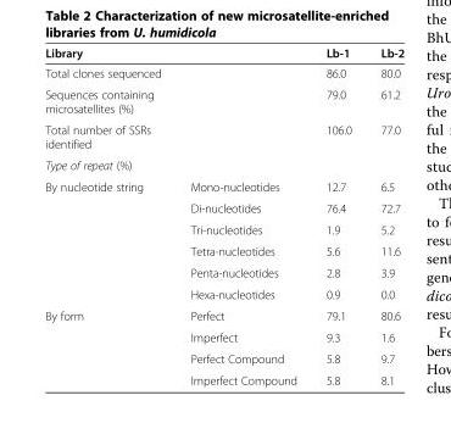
<table><thead><tr><td>Library</td><td></td><td>Lb-1</td><td>Lb-2</td></tr></thead><tbody><tr><td>Total clones sequenced</td><td></td><td>86.0</td><td>80.0</td></tr><tr><td>Sequences containing microsatellites (%)</td><td></td><td>79.0</td><td>61.2</td></tr><tr><td>Total number of SSRs identified</td><td></td><td>106.0</td><td>77.0</td></tr><tr><td colspan="4">Type of repeat (%)</td></tr><tr><td rowspan="6">By nucleotide string</td><td>Mono-nucleotides</td><td>12.7</td><td>6.5</td></tr><tr><td>Di-nucleotides</td><td>76.4</td><td>72.7</td></tr><tr><td>Tri-nucleotides</td><td>1.9</td><td>5.2</td></tr><tr><td>Tetra-nucleotides</td><td>5.6</td><td>11.6</td></tr><tr><td>Penta-nucleotides</td><td>2.8</td><td>3.9</td></tr><tr><td>Hexa-nucleotides</td><td>0.9</td><td>0.0</td></tr><tr><td rowspan="4">By form</td><td>Perfect</td><td>79.1</td><td>80.6</td></tr><tr><td>Imperfect</td><td>9.3</td><td>1.6</td></tr><tr><td>Perfect Compound</td><td>5.8</td><td>9.7</td></tr><tr><td>Imperfect Compound</td><td>5.8</td><td>8.1</td></tr></tbody></table>